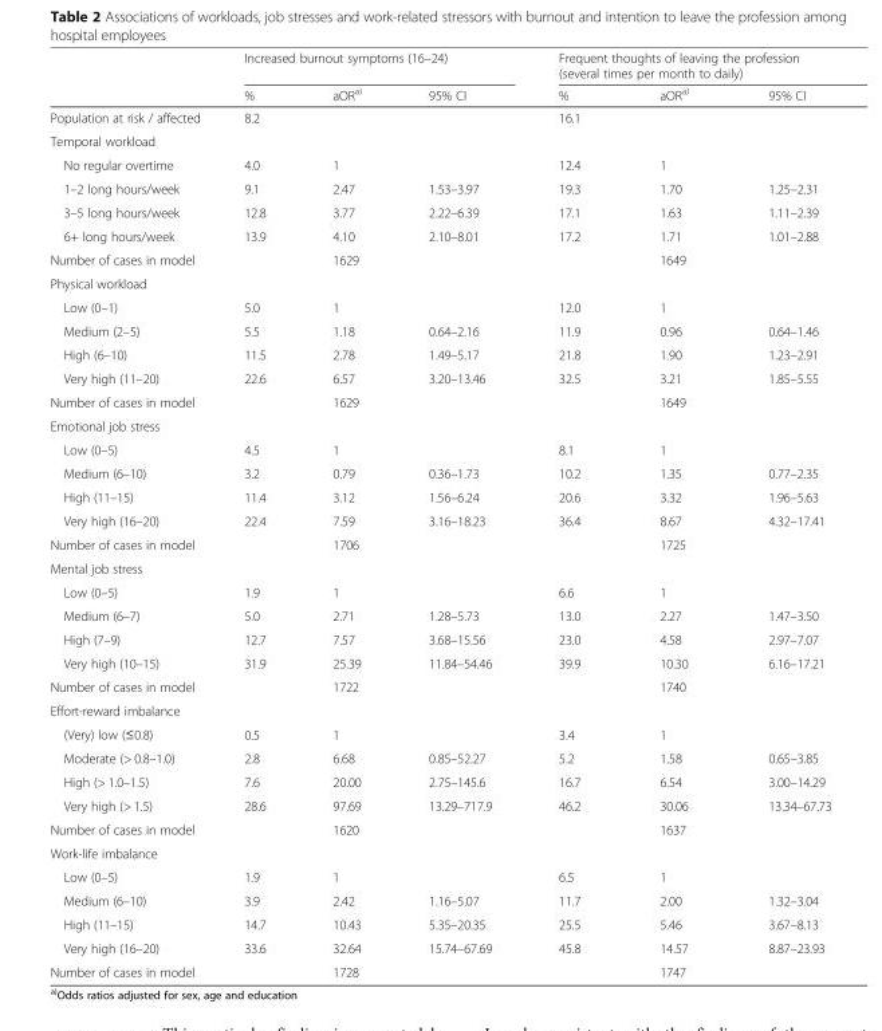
<table><thead><tr><td rowspan="2"></td><td colspan="3">Increased burnout symptoms (16–24)</td><td colspan="3">Frequent thoughts of leaving the profession (several times per month to daily)</td></tr><tr><td>%</td><td>aOR<sup>a)</sup></td><td>95% CI</td><td>%</td><td>aOR<sup>a)</sup></td><td>95% CI</td></tr></thead><tbody><tr><td>Population at risk / affected</td><td>8.2</td><td></td><td></td><td>16.1</td><td></td><td></td></tr><tr><td colspan="7">Temporal workload</td></tr><tr><td>No regular overtime</td><td>4.0</td><td>1</td><td></td><td>12.4</td><td>1</td><td></td></tr><tr><td>1–2 long hours/week</td><td>9.1</td><td>2.47</td><td>1.53–3.97</td><td>19.3</td><td>1.70</td><td>1.25–2.31</td></tr><tr><td>3–5 long hours/week</td><td>12.8</td><td>3.77</td><td>2.22–6.39</td><td>17.1</td><td>1.63</td><td>1.11–2.39</td></tr><tr><td>6+ long hours/week</td><td>13.9</td><td>4.10</td><td>2.10–8.01</td><td>17.2</td><td>1.71</td><td>1.01–2.88</td></tr><tr><td>Number of cases in model</td><td></td><td>1629</td><td></td><td></td><td>1649</td><td></td></tr><tr><td colspan="7">Physical workload</td></tr><tr><td>Low (0–1)</td><td>5.0</td><td>1</td><td></td><td>12.0</td><td>1</td><td></td></tr><tr><td>Medium (2–5)</td><td>5.5</td><td>1.18</td><td>0.64–2.16</td><td>11.9</td><td>0.96</td><td>0.64–1.46</td></tr><tr><td>High (6–10)</td><td>11.5</td><td>2.78</td><td>1.49–5.17</td><td>21.8</td><td>1.90</td><td>1.23–2.91</td></tr><tr><td>Very high (11–20)</td><td>22.6</td><td>6.57</td><td>3.20–13.46</td><td>32.5</td><td>3.21</td><td>1.85–5.55</td></tr><tr><td>Number of cases in model</td><td></td><td>1629</td><td></td><td></td><td>1649</td><td></td></tr><tr><td colspan="7">Emotional job stress</td></tr><tr><td>Low (0–5)</td><td>4.5</td><td>1</td><td></td><td>8.1</td><td>1</td><td></td></tr><tr><td>Medium (6–10)</td><td>3.2</td><td>0.79</td><td>0.36–1.73</td><td>10.2</td><td>1.35</td><td>0.77–2.35</td></tr><tr><td>High (11–15)</td><td>11.4</td><td>3.12</td><td>1.56–6.24</td><td>20.6</td><td>3.32</td><td>1.96–5.63</td></tr><tr><td>Very high (16–20)</td><td>22.4</td><td>7.59</td><td>3.16–18.23</td><td>36.4</td><td>8.67</td><td>4.32–17.41</td></tr><tr><td>Number of cases in model</td><td></td><td>1706</td><td></td><td></td><td>1725</td><td></td></tr><tr><td colspan="7">Mental job stress</td></tr><tr><td>Low (0–5)</td><td>1.9</td><td>1</td><td></td><td>6.6</td><td>1</td><td></td></tr><tr><td>Medium (6–7)</td><td>5.0</td><td>2.71</td><td>1.28–5.73</td><td>13.0</td><td>2.27</td><td>1.47–3.50</td></tr><tr><td>High (7–9)</td><td>12.7</td><td>7.57</td><td>3.68–15.56</td><td>23.0</td><td>4.58</td><td>2.97–7.07</td></tr><tr><td>Very high (10–15)</td><td>31.9</td><td>25.39</td><td>11.84–54.46</td><td>39.9</td><td>10.30</td><td>6.16–17.21</td></tr><tr><td>Number of cases in model</td><td></td><td>1722</td><td></td><td></td><td>1740</td><td></td></tr><tr><td colspan="7">Effort-reward imbalance</td></tr><tr><td>(Very) low (≤0.8)</td><td>0.5</td><td>1</td><td></td><td>3.4</td><td>1</td><td></td></tr><tr><td>Moderate (&gt; 0.8–1.0)</td><td>2.8</td><td>6.68</td><td>0.85–52.27</td><td>5.2</td><td>1.58</td><td>0.65–3.85</td></tr><tr><td>High (&gt; 1.0–1.5)</td><td>7.6</td><td>20.00</td><td>2.75–145.6</td><td>16.7</td><td>6.54</td><td>3.00–14.29</td></tr><tr><td>Very high (&gt; 1.5)</td><td>28.6</td><td>97.69</td><td>13.29–717.9</td><td>46.2</td><td>30.06</td><td>13.34–67.73</td></tr><tr><td>Number of cases in model</td><td></td><td>1620</td><td></td><td></td><td>1637</td><td></td></tr><tr><td colspan="7">Work-life imbalance</td></tr><tr><td>Low (0–5)</td><td>1.9</td><td>1</td><td></td><td>6.5</td><td>1</td><td></td></tr><tr><td>Medium (6–10)</td><td>3.9</td><td>2.42</td><td>1.16–5.07</td><td>11.7</td><td>2.00</td><td>1.32–3.04</td></tr><tr><td>High (11–15)</td><td>14.7</td><td>10.43</td><td>5.35–20.35</td><td>25.5</td><td>5.46</td><td>3.67–8.13</td></tr><tr><td>Very high (16–20)</td><td>33.6</td><td>32.64</td><td>15.74–67.69</td><td>45.8</td><td>14.57</td><td>8.87–23.93</td></tr><tr><td>Number of cases in model</td><td></td><td>1728</td><td></td><td></td><td>1747</td><td></td></tr></tbody></table>